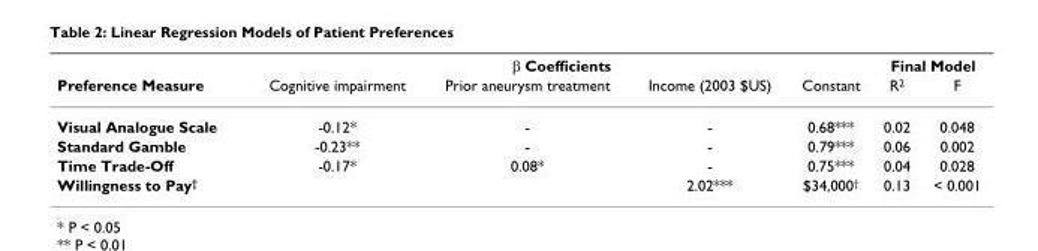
<table><thead><tr><td rowspan="2">Preference Measure</td><td colspan="4">β Coefficients</td><td colspan="2">Final Model</td></tr><tr><td>Cognitive impairment</td><td>Prior aneurysm treatment</td><td>Income (2003 $US)</td><td>Constant</td><td>R<sup>2</sup></td><td>F</td></tr></thead><tbody><tr><td>Visual Analogue Scale</td><td>-0.12*</td><td>-</td><td>-</td><td>0.68***</td><td>0.02</td><td>0.048</td></tr><tr><td>Standard Gamble</td><td>-0.23**</td><td>-</td><td>-</td><td>0.79***</td><td>0.06</td><td>0.002</td></tr><tr><td>Time Trade-Off</td><td>-0.17*</td><td>0.08*</td><td>-</td><td>0.75***</td><td>0.04</td><td>0.028</td></tr><tr><td>Willingness to Pay<sup>†</sup></td><td></td><td></td><td>2.02***</td><td>$34,000<sup>†</sup></td><td>0.13</td><td>&lt; 0.001</td></tr></tbody></table>